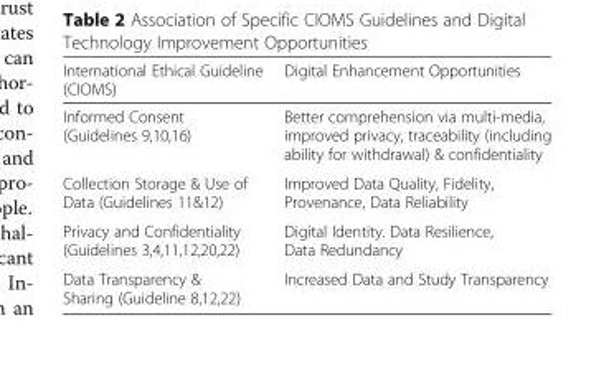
<table><thead><tr><td>International Ethical Guideline (CIOMS)</td><td>Digital Enhancement Opportunities</td></tr></thead><tbody><tr><td>Informed Consent (Guidelines 9,10,16)</td><td>Better comprehension via multi-media, improved privacy, traceability (including ability for withdrawal) &amp; confidentiality</td></tr><tr><td>Collection Storage &amp; Use of Data (Guidelines 11&amp;12)</td><td>Improved Data Quality, Fidelity, Provenance, Data Reliability</td></tr><tr><td>Privacy and Confidentiality (Guidelines 3,4,11,12,20,22)</td><td>Digital Identity. Data Resilience, Data Redundancy</td></tr><tr><td>Data Transparency &amp; Sharing (Guideline 8,12,22)</td><td>Increased Data and Study Transparency</td></tr></tbody></table>